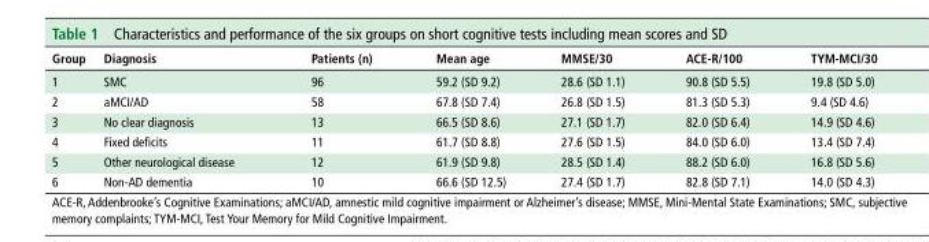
<table><thead><tr><td>Group</td><td>diagnosis</td><td>Patients (n)</td><td>Mean age</td><td>MMse/30</td><td>Ace-r/100</td><td>tYM-McI/30</td></tr></thead><tbody><tr><td>1</td><td>SMC</td><td>96</td><td>59.2 (SD 9.2)</td><td>28.6 (SD 1.1)</td><td>90.8 (SD 5.5)</td><td>19.8 (SD 5.0)</td></tr><tr><td>2</td><td>aMCI/AD</td><td>58</td><td>67.8 (SD 7.4)</td><td>26.8 (SD 1.5)</td><td>81.3 (SD 5.3)</td><td>9.4 (SD 4.6)</td></tr><tr><td>3</td><td>No clear diagnosis</td><td>13</td><td>66.5 (SD 8.6)</td><td>27.1 (SD 1.7)</td><td>82.0 (SD 6.4)</td><td>14.9 (SD 4.6)</td></tr><tr><td>4</td><td>Fixed deficits</td><td>11</td><td>61.7 (SD 8.8)</td><td>27.6 (SD 1.5)</td><td>84.0 (SD 6.0)</td><td>13.4 (SD 7.4)</td></tr><tr><td>5</td><td>Other neurological disease</td><td>12</td><td>61.9 (SD 9.8)</td><td>28.5 (SD 1.4)</td><td>88.2 (SD 6.0)</td><td>16.8 (SD 5.6)</td></tr><tr><td>6</td><td>Non-AD dementia</td><td>10</td><td>66.6 (SD 12.5)</td><td>27.4 (SD 1.7)</td><td>82.8 (SD 7.1)</td><td>14.0 (SD 4.3)</td></tr></tbody></table>